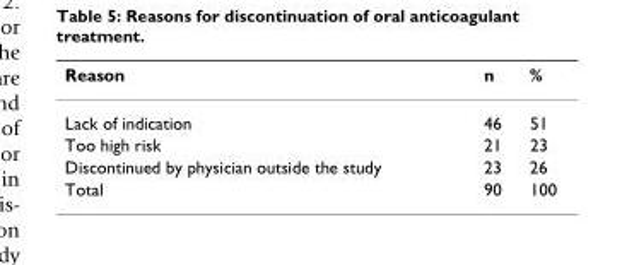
<table><thead><tr><td>Reason</td><td>n</td><td>%</td></tr></thead><tbody><tr><td>Lack of indication</td><td>46</td><td>51</td></tr><tr><td>Too high risk</td><td>21</td><td>23</td></tr><tr><td>Discontinued by physician outside the study</td><td>23</td><td>26</td></tr><tr><td>Total</td><td>90</td><td>100</td></tr></tbody></table>